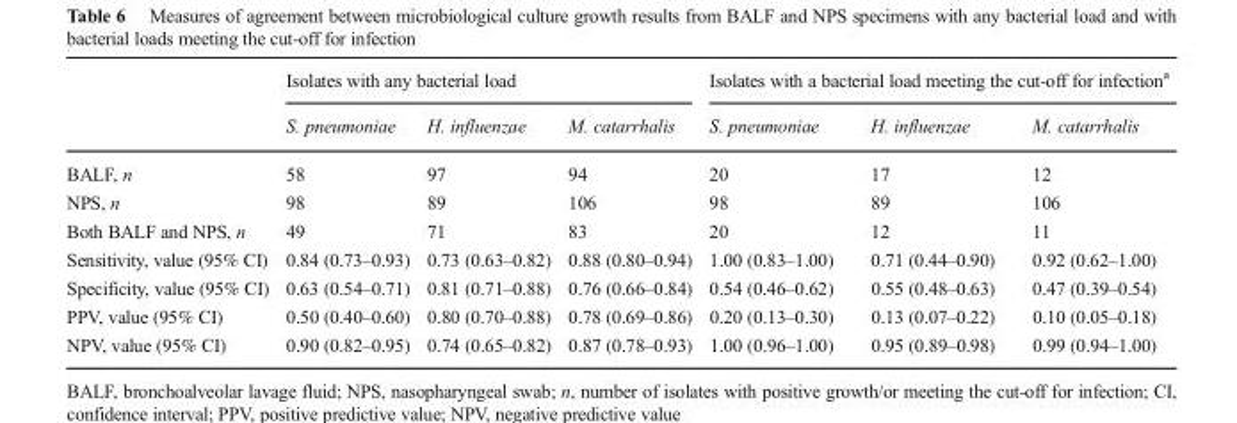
<table><thead><tr><td rowspan="2"></td><td colspan="3">Isolates with any bacterial load</td><td colspan="3">Isolates with a bacterial load meeting the cut-off for infection<sup>a</sup></td></tr><tr><td>S. pneumoniae</td><td>H. influenzae</td><td>M. catarrhalis</td><td>S. pneumoniae</td><td>H. influenzae</td><td>M. catarrhalis</td></tr></thead><tbody><tr><td>BALF, n</td><td>58</td><td>97</td><td>94</td><td>20</td><td>17</td><td>12</td></tr><tr><td>NPS, n</td><td>98</td><td>89</td><td>106</td><td>98</td><td>89</td><td>106</td></tr><tr><td>Both BALF and NPS, n</td><td>49</td><td>71</td><td>83</td><td>20</td><td>12</td><td>11</td></tr><tr><td>Sensitivity, value (95% CI)</td><td>0.84 (0.73–0.93)</td><td>0.73 (0.63–0.82)</td><td>0.88 (0.80–0.94)</td><td>1.00 (0.83–1.00)</td><td>0.71 (0.44–0.90)</td><td>0.92 (0.62–1.00)</td></tr><tr><td>Specificity, value (95% CI)</td><td>0.63 (0.54–0.71)</td><td>0.81 (0.71–0.88)</td><td>0.76 (0.66–0.84)</td><td>0.54 (0.46–0.62)</td><td>0.55 (0.48–0.63)</td><td>0.47 (0.39–0.54)</td></tr><tr><td>PPV, value (95% CI)</td><td>0.50 (0.40–0.60)</td><td>0.80 (0.70–0.88)</td><td>0.78 (0.69–0.86)</td><td>0.20 (0.13–0.30)</td><td>0.13 (0.07–0.22)</td><td>0.10 (0.05–0.18)</td></tr><tr><td>NPV, value (95% CI)</td><td>0.90 (0.82–0.95)</td><td>0.74 (0.65–0.82)</td><td>0.87 (0.78–0.93)</td><td>1.00 (0.96–1.00)</td><td>0.95 (0.89–0.98)</td><td>0.99 (0.94–1.00)</td></tr></tbody></table>